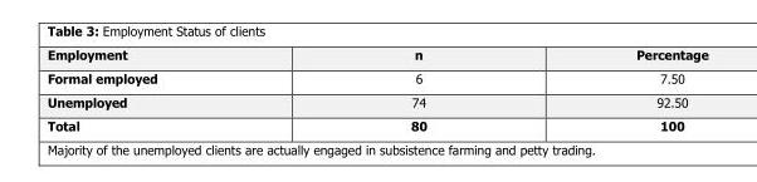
<table><thead><tr><td>Employment</td><td>n</td><td>Percentage</td></tr></thead><tbody><tr><td>Formal employed</td><td>6</td><td>7.50</td></tr><tr><td>Unemployed</td><td>74</td><td>92.50</td></tr><tr><td>Total</td><td>80</td><td>100</td></tr></tbody></table>